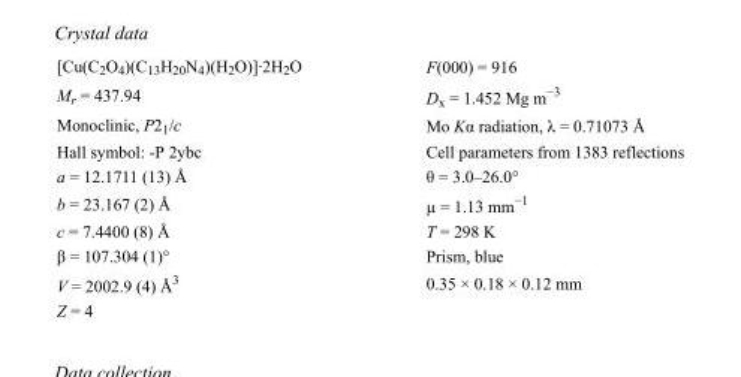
<table><tbody><tr><td>[Cu(C<sub>2</sub>O<sub>4</sub>)(C<sub>13</sub>H<sub>20</sub>N<sub>4</sub>)(H<sub>2</sub>O)]·2H<sub>2</sub>O</td><td>F(000) = 916</td></tr><tr><td>M<sub>r</sub> = 437.94</td><td>D<sub>x</sub> = 1.452 Mg m<sup>−3</sup></td></tr><tr><td>Monoclinic, P2<sub>1</sub>/c</td><td>Mo Kα radiation, λ = 0.71073 Å</td></tr><tr><td>Hall symbol: -P 2ybc</td><td>Cell parameters from 1383 reflections</td></tr><tr><td>a = 12.1711 (13) Å</td><td>θ = 3.0–26.0°</td></tr><tr><td>b = 23.167 (2) Å</td><td>µ = 1.13 mm<sup>−1</sup></td></tr><tr><td>c = 7.4400 (8) Å</td><td>T = 298 K</td></tr><tr><td>β = 107.304 (1)°</td><td>Prism, blue</td></tr><tr><td>V = 2002.9 (4) Å<sup>3</sup></td><td>0.35 × 0.18 × 0.12 mm</td></tr><tr><td>Z = 4</td><td></td></tr></tbody></table>